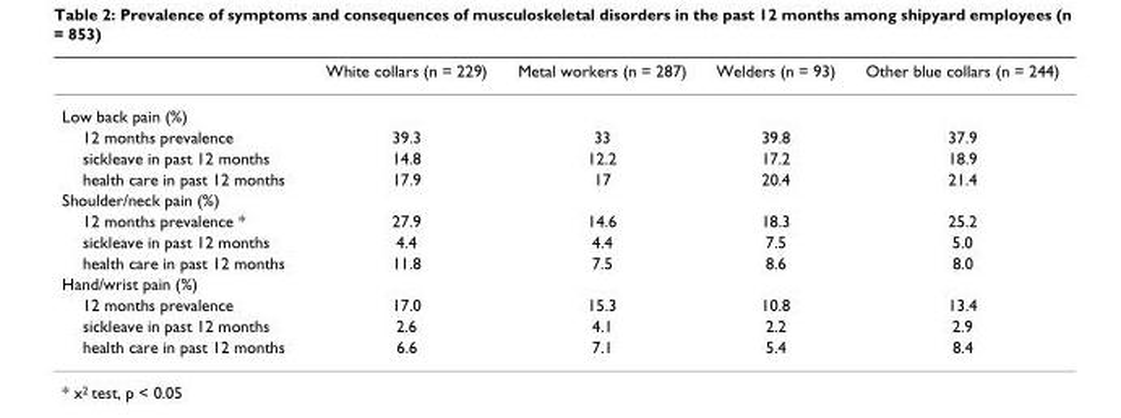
<table><thead><tr><td></td><td>White collars (n = 229)</td><td>Metal workers (n = 287)</td><td>Welders (n = 93)</td><td>Other blue collars (n = 244)</td></tr></thead><tbody><tr><td colspan="5">Low back pain (%)</td></tr><tr><td>12 months prevalence</td><td>39.3</td><td>33</td><td>39.8</td><td>37.9</td></tr><tr><td>sickleave in past 12 months</td><td>14.8</td><td>12.2</td><td>17.2</td><td>18.9</td></tr><tr><td>health care in past 12 months</td><td>17.9</td><td>17</td><td>20.4</td><td>21.4</td></tr><tr><td colspan="5">Shoulder/neck pain (%)</td></tr><tr><td>12 months prevalence *</td><td>27.9</td><td>14.6</td><td>18.3</td><td>25.2</td></tr><tr><td>sickleave in past 12 months</td><td>4.4</td><td>4.4</td><td>7.5</td><td>5.0</td></tr><tr><td>health care in past 12 months</td><td>11.8</td><td>7.5</td><td>8.6</td><td>8.0</td></tr><tr><td colspan="5">Hand/wrist pain (%)</td></tr><tr><td>12 months prevalence</td><td>17.0</td><td>15.3</td><td>10.8</td><td>13.4</td></tr><tr><td>sickleave in past 12 months</td><td>2.6</td><td>4.1</td><td>2.2</td><td>2.9</td></tr><tr><td>health care in past 12 months</td><td>6.6</td><td>7.1</td><td>5.4</td><td>8.4</td></tr></tbody></table>